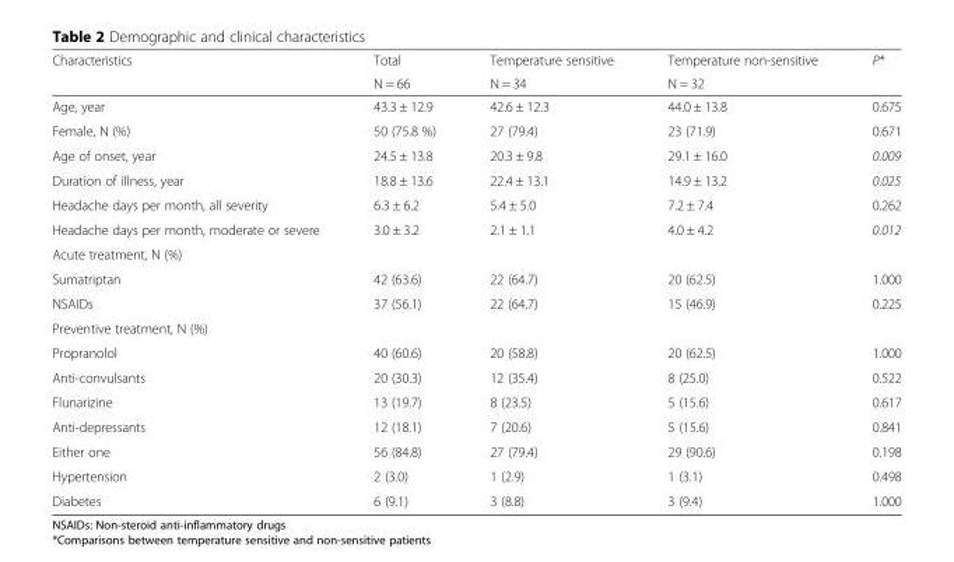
<table><thead><tr><td rowspan="2">Characteristics</td><td rowspan="2">Total N = 66</td><td rowspan="2">Temperature sensitive N = 34</td><td rowspan="2">Temperature non-sensitive N = 32</td><td rowspan="2">P*</td></tr><tr></tr></thead><tbody><tr><td>Age, year</td><td>43.3 ± 12.9</td><td>42.6 ± 12.3</td><td>44.0 ± 13.8</td><td>0.675</td></tr><tr><td>Female, N (%)</td><td>50 (75.8 %)</td><td>27 (79.4)</td><td>23 (71.9)</td><td>0.671</td></tr><tr><td>Age of onset, year</td><td>24.5 ± 13.8</td><td>20.3 ± 9.8</td><td>29.1 ± 16.0</td><td>0.009</td></tr><tr><td>Duration of illness, year</td><td>18.8 ± 13.6</td><td>22.4 ± 13.1</td><td>14.9 ± 13.2</td><td>0.025</td></tr><tr><td>Headache days per month, all severity</td><td>6.3 ± 6.2</td><td>5.4 ± 5.0</td><td>7.2 ± 7.4</td><td>0.262</td></tr><tr><td>Headache days per month, moderate or severe</td><td>3.0 ± 3.2</td><td>2.1 ± 1.1</td><td>4.0 ± 4.2</td><td>0.012</td></tr><tr><td colspan="5">Acute treatment, N (%)</td></tr><tr><td>Sumatriptan</td><td>42 (63.6)</td><td>22 (64.7)</td><td>20 (62.5)</td><td>1.000</td></tr><tr><td>NSAIDs</td><td>37 (56.1)</td><td>22 (64.7)</td><td>15 (46.9)</td><td>0.225</td></tr><tr><td colspan="5">Preventive treatment, N (%)</td></tr><tr><td>Propranolol</td><td>40 (60.6)</td><td>20 (58.8)</td><td>20 (62.5)</td><td>1.000</td></tr><tr><td>Anti-convulsants</td><td>20 (30.3)</td><td>12 (35.4)</td><td>8 (25.0)</td><td>0.522</td></tr><tr><td>Flunarizine</td><td>13 (19.7)</td><td>8 (23.5)</td><td>5 (15.6)</td><td>0.617</td></tr><tr><td>Anti-depressants</td><td>12 (18.1)</td><td>7 (20.6)</td><td>5 (15.6)</td><td>0.841</td></tr><tr><td>Either one</td><td>56 (84.8)</td><td>27 (79.4)</td><td>29 (90.6)</td><td>0.198</td></tr><tr><td>Hypertension</td><td>2 (3.0)</td><td>1 (2.9)</td><td>1 (3.1)</td><td>0.498</td></tr><tr><td>Diabetes</td><td>6 (9.1)</td><td>3 (8.8)</td><td>3 (9.4)</td><td>1.000</td></tr></tbody></table>